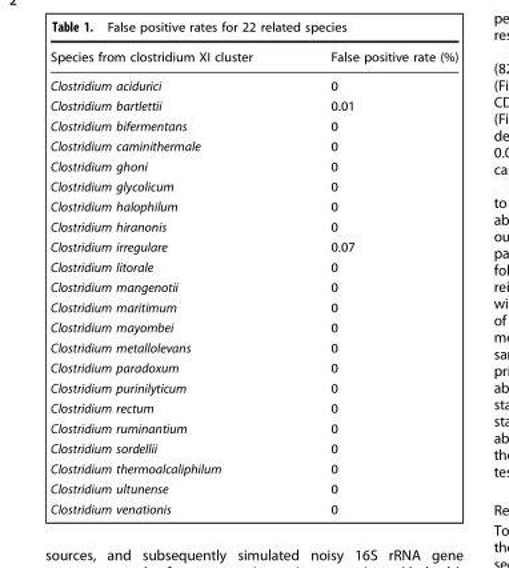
<table><thead><tr><td>Species from clostridium XI cluster</td><td>False positive rate (%)</td></tr></thead><tbody><tr><td>Clostridium acidurici</td><td>0</td></tr><tr><td>Clostridium bartlettii</td><td>0.01</td></tr><tr><td>Clostridium bifermentans</td><td>0</td></tr><tr><td>Clostridium caminithermale</td><td>0</td></tr><tr><td>Clostridium ghoni</td><td>0</td></tr><tr><td>Clostridium glycolicum</td><td>0</td></tr><tr><td>Clostridium halophilum</td><td>0</td></tr><tr><td>Clostridium hiranonis</td><td>0</td></tr><tr><td>Clostridium irregulare</td><td>0.07</td></tr><tr><td>Clostridium litorale</td><td>0</td></tr><tr><td>Clostridium mangenotii</td><td>0</td></tr><tr><td>Clostridium maritimum</td><td>0</td></tr><tr><td>Clostridium mayombei</td><td>0</td></tr><tr><td>Clostridium metallolevans</td><td>0</td></tr><tr><td>Clostridium paradoxum</td><td>0</td></tr><tr><td>Clostridium purinilyticum</td><td>0</td></tr><tr><td>Clostridium rectum</td><td>0</td></tr><tr><td>Clostridium ruminantium</td><td>0</td></tr><tr><td>Clostridium sordellii</td><td>0</td></tr><tr><td>Clostridium thermoalcaliphilum</td><td>0</td></tr><tr><td>Clostridium ultunense</td><td>0</td></tr><tr><td>Clostridium venationis</td><td>0</td></tr></tbody></table>